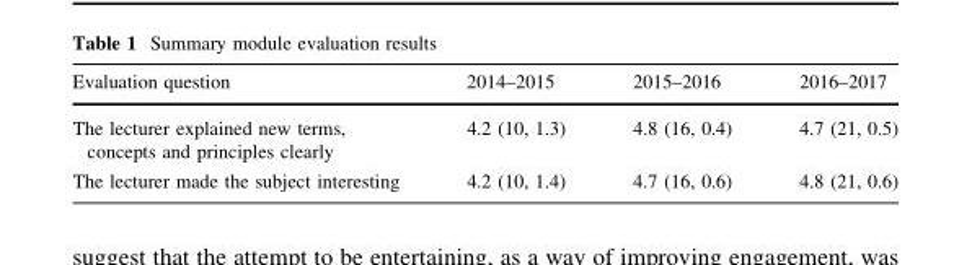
<table><thead><tr><td>Evaluation question</td><td>2014–2015</td><td>2015–2016</td><td>2016–2017</td></tr></thead><tbody><tr><td>The lecturer explained new terms, concepts and principles clearly</td><td>4.2 (10, 1.3)</td><td>4.8 (16, 0.4)</td><td>4.7 (21, 0.5)</td></tr><tr><td>The lecturer made the subject interesting</td><td>4.2 (10, 1.4)</td><td>4.7 (16, 0.6)</td><td>4.8 (21, 0.6)</td></tr></tbody></table>